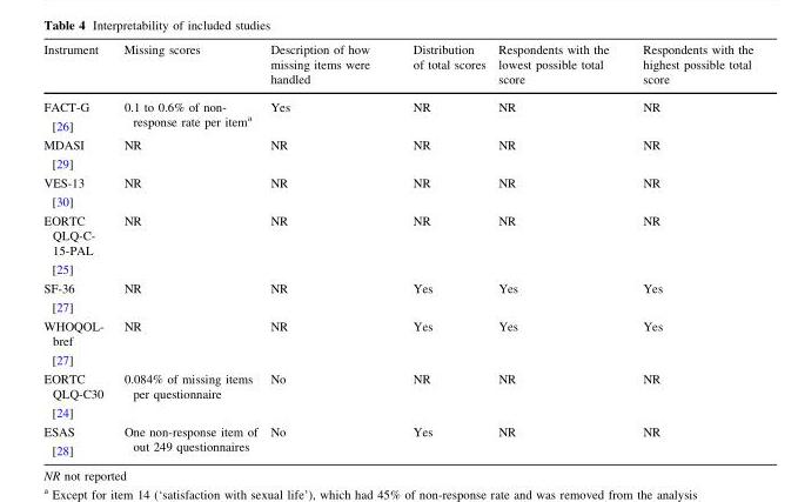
<table><thead><tr><td>Instrument</td><td>Missing scores</td><td>Description of how missing items were handled</td><td>Distribution of total scores</td><td>Respondents with the lowest possible total score</td><td>Respondents with the highest possible total score</td></tr></thead><tbody><tr><td>FACT-G [26]</td><td>0.1 to 0.6% of non- response rate per item<sup>a</sup></td><td>Yes</td><td>NR</td><td>NR</td><td>NR</td></tr><tr><td>MDASI [29]</td><td>NR</td><td>NR</td><td>NR</td><td>NR</td><td>NR</td></tr><tr><td>VES-13 [30]</td><td>NR</td><td>NR</td><td>NR</td><td>NR</td><td>NR</td></tr><tr><td>EORTC QLQ-C- 15-PAL [25]</td><td>NR</td><td>NR</td><td>NR</td><td>NR</td><td>NR</td></tr><tr><td>SF-36 [27]</td><td>NR</td><td>NR</td><td>Yes</td><td>Yes</td><td>Yes</td></tr><tr><td>WHOQOL- bref [27]</td><td>NR</td><td>NR</td><td>Yes</td><td>Yes</td><td>Yes</td></tr><tr><td>EORTC QLQ-C30 [24]</td><td>0.084% of missing items per questionnaire</td><td>No</td><td>NR</td><td>NR</td><td>NR</td></tr><tr><td>ESAS [28]</td><td>One non-response item of out 249 questionnaires</td><td>No</td><td>Yes</td><td>NR</td><td>NR</td></tr></tbody></table>